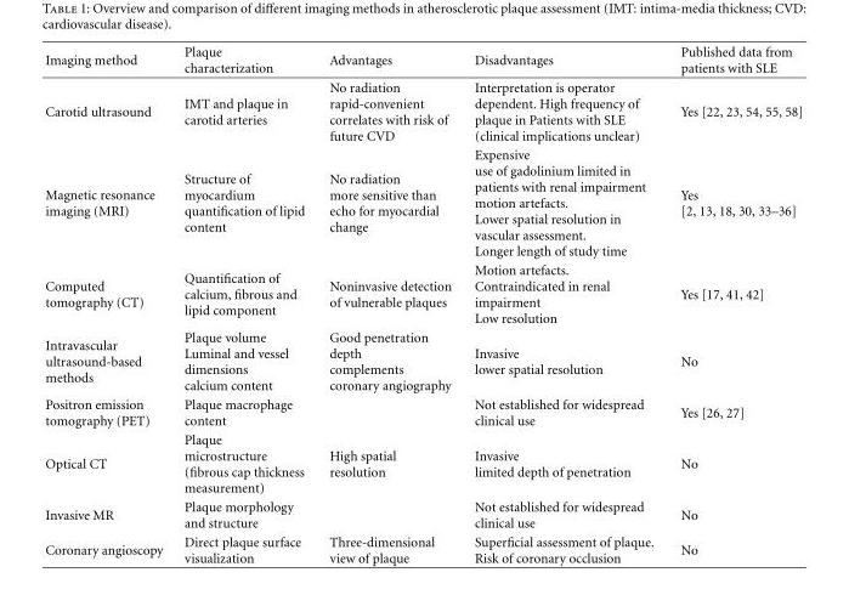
<table><thead><tr><td>Imaging method</td><td>Plaque characterization</td><td>Advantages</td><td>Disadvantages</td><td>Published data from patients with SLE</td></tr></thead><tbody><tr><td>Carotid ultrasound</td><td>IMT and plaque in carotid arteries</td><td>No radiation rapid-convenient correlates with risk of future CVD</td><td>Interpretation is operator dependent. High frequency of plaque in Patients with SLE (clinical implications unclear)</td><td>Yes [22, 23, 54, 55, 58]</td></tr><tr><td>Magnetic resonance imaging (MRI)</td><td>Structure of myocardium quantification of lipid content</td><td>No radiation more sensitive than echo for myocardial change</td><td>Expensive use of gadolinium limited in patients with renal impairment motion artefacts. Lower spatial resolution in vascular assessment. Longer length of study time</td><td>Yes [2, 13, 18, 30, 33–36]</td></tr><tr><td>Computed tomography (CT)</td><td>Quantification of calcium, fibrous and lipid component</td><td>Noninvasive detection of vulnerable plaques</td><td>Motion artefacts. Contraindicated in renal impairment Low resolution</td><td>Yes [17, 41, 42]</td></tr><tr><td>Intravascular ultrasound-based methods</td><td>Plaque volume Luminal and vessel dimensions calcium content</td><td>Good penetration depth complements coronary angiography</td><td>Invasive lower spatial resolution</td><td>No</td></tr><tr><td>Positron emission tomography (PET)</td><td>Plaque macrophage content</td><td></td><td>Not established for widespread clinical use</td><td>Yes [26, 27]</td></tr><tr><td>Optical CT</td><td>Plaque microstructure (fibrous cap thickness measurement)</td><td>High spatial resolution</td><td>Invasive limited depth of penetration</td><td>No</td></tr><tr><td>Invasive MR</td><td>Plaque morphology and structure</td><td></td><td>Not established for widespread clinical use</td><td>No</td></tr><tr><td>Coronary angioscopy</td><td>Direct plaque surface visualization</td><td>Three-dimensional view of plaque</td><td>Superficial assessment of plaque. Risk of coronary occlusion</td><td>No</td></tr></tbody></table>